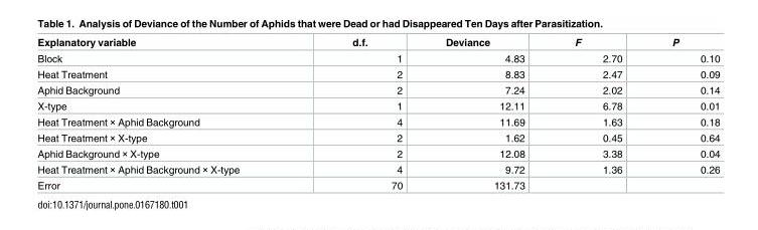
<table><thead><tr><td>Explanatory variable</td><td>d.f.</td><td>Deviance</td><td>F</td><td>P</td></tr></thead><tbody><tr><td>Block</td><td>1</td><td>4.83</td><td>2.70</td><td>0.10</td></tr><tr><td>Heat Treatment</td><td>2</td><td>8.83</td><td>2.47</td><td>0.09</td></tr><tr><td>Aphid Background</td><td>2</td><td>7.24</td><td>2.02</td><td>0.14</td></tr><tr><td>X-type</td><td>1</td><td>12.11</td><td>6.78</td><td>0.01</td></tr><tr><td>Heat Treatment × Aphid Background</td><td>4</td><td>11.69</td><td>1.63</td><td>0.18</td></tr><tr><td>Heat Treatment × X-type</td><td>2</td><td>1.62</td><td>0.45</td><td>0.64</td></tr><tr><td>Aphid Background × X-type</td><td>2</td><td>12.08</td><td>3.38</td><td>0.04</td></tr><tr><td>Heat Treatment × Aphid Background × X-type</td><td>4</td><td>9.72</td><td>1.36</td><td>0.26</td></tr><tr><td>Error</td><td>70</td><td>131.73</td><td></td><td></td></tr></tbody></table>